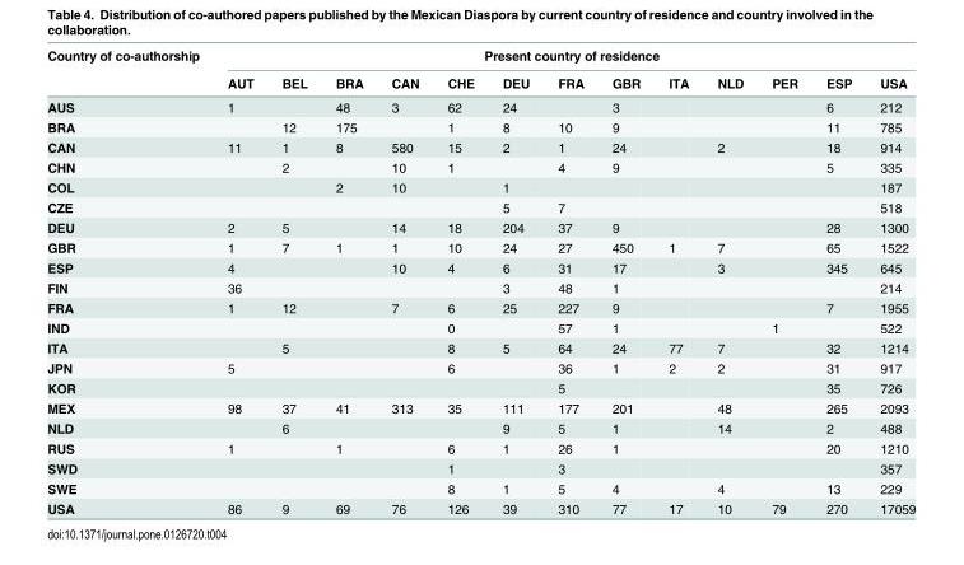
<table><thead><tr><td rowspan="2">Country of co-authorship</td><td colspan="13">Present country of residence</td></tr><tr><td>AUT</td><td>BEL</td><td>BRA</td><td>CAN</td><td>CHE</td><td>DEU</td><td>FRA</td><td>GBR</td><td>ITA</td><td>NLD</td><td>PER</td><td>ESP</td><td>USA</td></tr></thead><tbody><tr><td>AUS</td><td>1</td><td></td><td>48</td><td>3</td><td>62</td><td>24</td><td></td><td>3</td><td></td><td></td><td></td><td>6</td><td>212</td></tr><tr><td>BRA</td><td></td><td>12</td><td>175</td><td></td><td>1</td><td>8</td><td>10</td><td>9</td><td></td><td></td><td></td><td>11</td><td>785</td></tr><tr><td>CAN</td><td>11</td><td>1</td><td>8</td><td>580</td><td>15</td><td>2</td><td>1</td><td>24</td><td></td><td>2</td><td></td><td>18</td><td>914</td></tr><tr><td>CHN</td><td></td><td>2</td><td></td><td>10</td><td>1</td><td></td><td>4</td><td>9</td><td></td><td></td><td></td><td>5</td><td>335</td></tr><tr><td>COL</td><td></td><td></td><td>2</td><td>10</td><td></td><td>1</td><td></td><td></td><td></td><td></td><td></td><td></td><td>187</td></tr><tr><td>CZE</td><td></td><td></td><td></td><td></td><td></td><td>5</td><td>7</td><td></td><td></td><td></td><td></td><td></td><td>518</td></tr><tr><td>DEU</td><td>2</td><td>5</td><td></td><td>14</td><td>18</td><td>204</td><td>37</td><td>9</td><td></td><td></td><td></td><td>28</td><td>1300</td></tr><tr><td>GBR</td><td>1</td><td>7</td><td>1</td><td>1</td><td>10</td><td>24</td><td>27</td><td>450</td><td>1</td><td>7</td><td></td><td>65</td><td>1522</td></tr><tr><td>ESP</td><td>4</td><td></td><td></td><td>10</td><td>4</td><td>6</td><td>31</td><td>17</td><td></td><td>3</td><td></td><td>345</td><td>645</td></tr><tr><td>FIN</td><td>36</td><td></td><td></td><td></td><td></td><td>3</td><td>48</td><td>1</td><td></td><td></td><td></td><td></td><td>214</td></tr><tr><td>FRA</td><td>1</td><td>12</td><td></td><td>7</td><td>6</td><td>25</td><td>227</td><td>9</td><td></td><td></td><td></td><td>7</td><td>1955</td></tr><tr><td>IND</td><td></td><td></td><td></td><td></td><td>0</td><td></td><td>57</td><td>1</td><td></td><td></td><td>1</td><td></td><td>522</td></tr><tr><td>ITA</td><td></td><td>5</td><td></td><td></td><td>8</td><td>5</td><td>64</td><td>24</td><td>77</td><td>7</td><td></td><td>32</td><td>1214</td></tr><tr><td>JPN</td><td>5</td><td></td><td></td><td></td><td>6</td><td></td><td>36</td><td>1</td><td>2</td><td>2</td><td></td><td>31</td><td>917</td></tr><tr><td>KOR</td><td></td><td></td><td></td><td></td><td></td><td></td><td>5</td><td></td><td></td><td></td><td></td><td>35</td><td>726</td></tr><tr><td>MEX</td><td>98</td><td>37</td><td>41</td><td>313</td><td>35</td><td>111</td><td>177</td><td>201</td><td></td><td>48</td><td></td><td>265</td><td>2093</td></tr><tr><td>NLD</td><td></td><td>6</td><td></td><td></td><td></td><td>9</td><td>5</td><td>1</td><td></td><td>14</td><td></td><td>2</td><td>488</td></tr><tr><td>RUS</td><td>1</td><td></td><td>1</td><td></td><td>6</td><td>1</td><td>26</td><td>1</td><td></td><td></td><td></td><td>20</td><td>1210</td></tr><tr><td>SWD</td><td></td><td></td><td></td><td></td><td>1</td><td></td><td>3</td><td></td><td></td><td></td><td></td><td></td><td>357</td></tr><tr><td>SWE</td><td></td><td></td><td></td><td></td><td>8</td><td>1</td><td>5</td><td>4</td><td></td><td>4</td><td></td><td>13</td><td>229</td></tr><tr><td>USA</td><td>86</td><td>9</td><td>69</td><td>76</td><td>126</td><td>39</td><td>310</td><td>77</td><td>17</td><td>10</td><td>79</td><td>270</td><td>17059</td></tr></tbody></table>